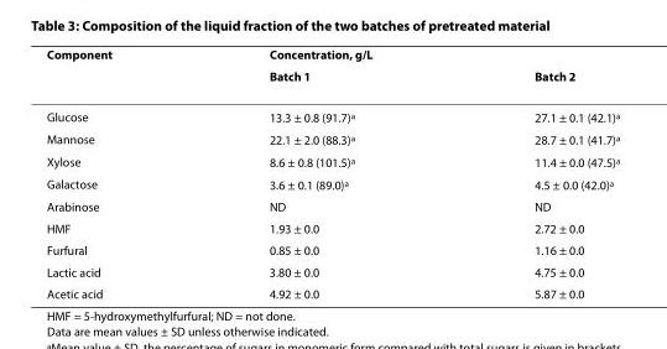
<table><thead><tr><td rowspan="2">Component</td><td colspan="2">Concentration, g/L</td></tr><tr><td>Batch 1</td><td>Batch 2</td></tr></thead><tbody><tr><td>Glucose</td><td>13.3 ± 0.8 (91.7)<sup>a</sup></td><td>27.1 ± 0.1 (42.1)<sup>a</sup></td></tr><tr><td>Mannose</td><td>22.1 ± 2.0 (88.3)<sup>a</sup></td><td>28.7 ± 0.1 (41.7)<sup>a</sup></td></tr><tr><td>Xylose</td><td>8.6 ± 0.8 (101.5)<sup>a</sup></td><td>11.4 ± 0.0 (47.5)<sup>a</sup></td></tr><tr><td>Galactose</td><td>3.6 ± 0.1 (89.0)<sup>a</sup></td><td>4.5 ± 0.0 (42.0)<sup>a</sup></td></tr><tr><td>Arabinose</td><td>ND</td><td>ND</td></tr><tr><td>HMF</td><td>1.93 ± 0.0</td><td>2.72 ± 0.0</td></tr><tr><td>Furfural</td><td>0.85 ± 0.0</td><td>1.16 ± 0.0</td></tr><tr><td>Lactic acid</td><td>3.80 ± 0.0</td><td>4.75 ± 0.0</td></tr><tr><td>Acetic acid</td><td>4.92 ± 0.0</td><td>5.87 ± 0.0</td></tr></tbody></table>